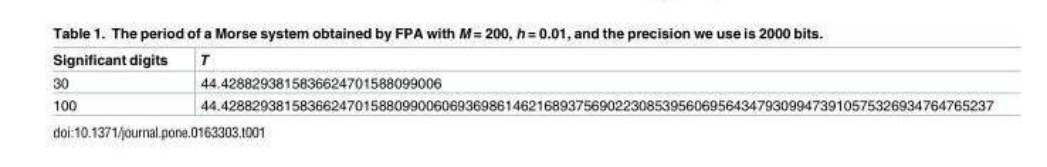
<table><thead><tr><td>Significant digits</td><td>T</td></tr></thead><tbody><tr><td>30</td><td>44.4288293815836624701588099006</td></tr><tr><td>100</td><td>44.42882938158366247015880990060693698614621689375690223085395606956434793099473910575326934764765237</td></tr></tbody></table>